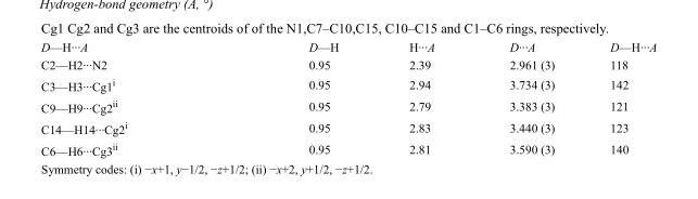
<table><tbody><tr><td>D—H···A</td><td>D—H</td><td>H···A</td><td>D···A</td><td>D—H···A</td></tr><tr><td>C2—H2···N2</td><td>0.95</td><td>2.39</td><td>2.961 (3)</td><td>118</td></tr><tr><td>C3—H3···Cg1<sup>i</sup></td><td>0.95</td><td>2.94</td><td>3.734 (3)</td><td>142</td></tr><tr><td>C9—H9···Cg2<sup>ii</sup></td><td>0.95</td><td>2.79</td><td>3.383 (3)</td><td>121</td></tr><tr><td>C14—H14···Cg2<sup>i</sup></td><td>0.95</td><td>2.83</td><td>3.440 (3)</td><td>123</td></tr><tr><td>C6—H6···Cg3<sup>ii</sup></td><td>0.95</td><td>2.81</td><td>3.590 (3)</td><td>140</td></tr></tbody></table>